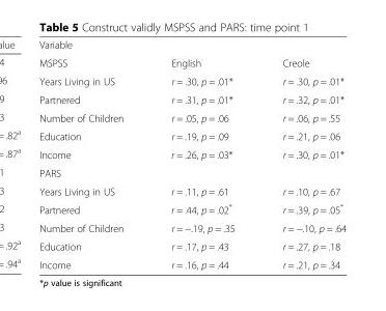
<table><tbody><tr><td colspan="3">Variable</td></tr><tr><td>MSPSS</td><td>English</td><td>Creole</td></tr><tr><td>Years Living in US</td><td>r = .30, p = .01*</td><td>r = .30, p = .01*</td></tr><tr><td>Partnered</td><td>r = .31, p = .01*</td><td>r = .32, p = .01*</td></tr><tr><td>Number of Children</td><td>r = .05, p = .06</td><td>r = .06, p = .55</td></tr><tr><td>Education</td><td>r = .19, p = .09</td><td>r = .21, p = .06</td></tr><tr><td>Income</td><td>r = .26, p = .03*</td><td>r = .30, p = .01*</td></tr><tr><td colspan="3">PARS</td></tr><tr><td>Years Living in US</td><td>r = .11, p = .61</td><td>r = .10, p = .67</td></tr><tr><td>Partnered</td><td>r = .44, p = .02*</td><td>r = .39, p = .05*</td></tr><tr><td>Number of Children</td><td>r = −.19, p = .35</td><td>r = −.10, p = .64</td></tr><tr><td>Education</td><td>r = .17, p = .43</td><td>r = .27, p = .18</td></tr><tr><td>Income</td><td>r = .16, p = .44</td><td>r = .21, p = .34</td></tr></tbody></table>